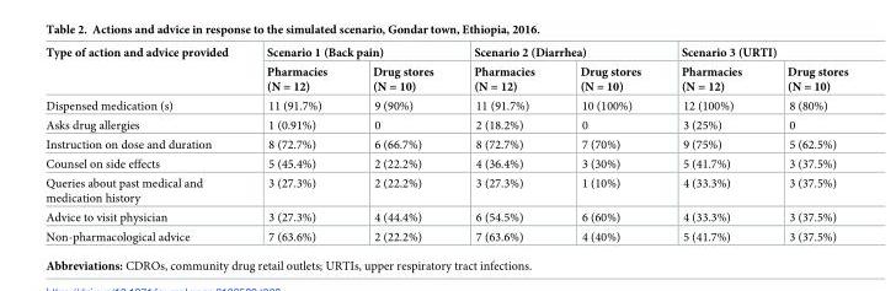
<table><thead><tr><td rowspan="2">Type of action and advice provided</td><td colspan="2">Scenario 1 (Back pain)</td><td colspan="2">Scenario 2 (Diarrhea)</td><td colspan="2">Scenario 3 (URTI)</td></tr><tr><td>Pharmacies (N = 12)</td><td>Drug stores (N = 10)</td><td>Pharmacies (N = 12)</td><td>Drug stores (N = 10)</td><td>Pharmacies (N = 12)</td><td>Drug stores (N = 10)</td></tr></thead><tbody><tr><td>Dispensed medication (s)</td><td>11 (91.7%)</td><td>9 (90%)</td><td>11 (91.7%)</td><td>10 (100%)</td><td>12 (100%)</td><td>8 (80%)</td></tr><tr><td>Asks drug allergies</td><td>1 (0.91%)</td><td>0</td><td>2 (18.2%)</td><td>0</td><td>3 (25%)</td><td>0</td></tr><tr><td>Instruction on dose and duration</td><td>8 (72.7%)</td><td>6 (66.7%)</td><td>8 (72.7%)</td><td>7 (70%)</td><td>9 (75%)</td><td>5 (62.5%)</td></tr><tr><td>Counsel on side effects</td><td>5 (45.4%)</td><td>2 (22.2%)</td><td>4 (36.4%)</td><td>3 (30%)</td><td>5 (41.7%)</td><td>3 (37.5%)</td></tr><tr><td>Queries about past medical and medication history</td><td>3 (27.3%)</td><td>2 (22.2%)</td><td>3 (27.3%)</td><td>1 (10%)</td><td>4 (33.3%)</td><td>3 (37.5%)</td></tr><tr><td>Advice to visit physician</td><td>3 (27.3%)</td><td>4 (44.4%)</td><td>6 (54.5%)</td><td>6 (60%)</td><td>4 (33.3%)</td><td>3 (37.5%)</td></tr><tr><td>Non-pharmacological advice</td><td>7 (63.6%)</td><td>2 (22.2%)</td><td>7 (63.6%)</td><td>4 (40%)</td><td>5 (41.7%)</td><td>3 (37.5%)</td></tr></tbody></table>